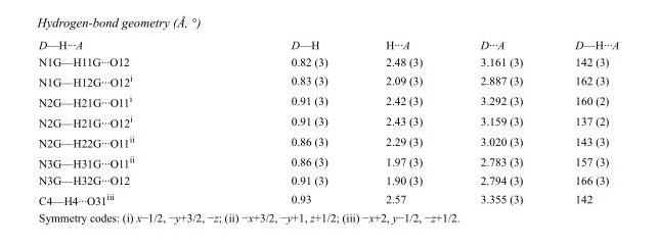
<table><tbody><tr><td>D—H···A</td><td>D—H</td><td>H···A</td><td>D···A</td><td>D—H···A</td></tr><tr><td>N1G—H11G···O12</td><td>0.82 (3)</td><td>2.48 (3)</td><td>3.161 (3)</td><td>142 (3)</td></tr><tr><td>N1G—H12G···O12<sup>i</sup></td><td>0.83 (3)</td><td>2.09 (3)</td><td>2.887 (3)</td><td>162 (3)</td></tr><tr><td>N2G—H21G···O11<sup>i</sup></td><td>0.91 (3)</td><td>2.42 (3)</td><td>3.292 (3)</td><td>160 (2)</td></tr><tr><td>N2G—H21G···O12<sup>i</sup></td><td>0.91 (3)</td><td>2.43 (3)</td><td>3.159 (3)</td><td>137 (2)</td></tr><tr><td>N2G—H22G···O11<sup>ii</sup></td><td>0.86 (3)</td><td>2.29 (3)</td><td>3.020 (3)</td><td>143 (3)</td></tr><tr><td>N3G—H31G···O11<sup>ii</sup></td><td>0.86 (3)</td><td>1.97 (3)</td><td>2.783 (3)</td><td>157 (3)</td></tr><tr><td>N3G—H32G···O12</td><td>0.91 (3)</td><td>1.90 (3)</td><td>2.794 (3)</td><td>166 (3)</td></tr><tr><td>C4—H4···O31<sup>iii</sup></td><td>0.93</td><td>2.57</td><td>3.355 (3)</td><td>142</td></tr></tbody></table>